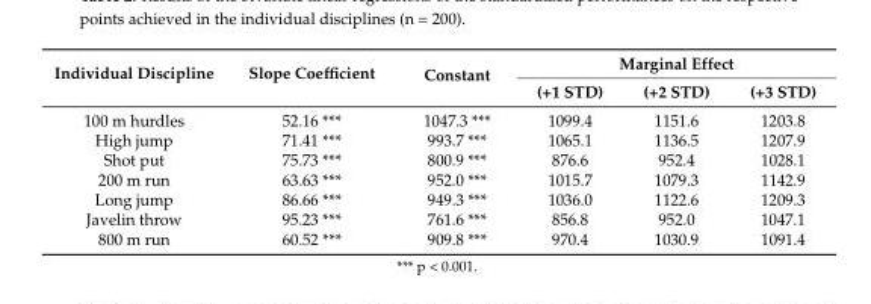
<table><thead><tr><td rowspan="2">Individual Discipline</td><td rowspan="2">Slope Coefficient</td><td rowspan="2">Constant</td><td colspan="3">Marginal Effect</td></tr><tr><td>(+1 STD)</td><td>(+2 STD)</td><td>(+3 STD)</td></tr></thead><tbody><tr><td>100 m hurdles</td><td>52.16 ***</td><td>1047.3 ***</td><td>1099.4</td><td>1151.6</td><td>1203.8</td></tr><tr><td>High jump</td><td>71.41 ***</td><td>993.7 ***</td><td>1065.1</td><td>1136.5</td><td>1207.9</td></tr><tr><td>Shot put</td><td>75.73 ***</td><td>800.9 ***</td><td>876.6</td><td>952.4</td><td>1028.1</td></tr><tr><td>200 m run</td><td>63.63 ***</td><td>952.0 ***</td><td>1015.7</td><td>1079.3</td><td>1142.9</td></tr><tr><td>Long jump</td><td>86.66 ***</td><td>949.3 ***</td><td>1036.0</td><td>1122.6</td><td>1209.3</td></tr><tr><td>Javelin throw</td><td>95.23 ***</td><td>761.6 ***</td><td>856.8</td><td>952.0</td><td>1047.1</td></tr><tr><td>800 m run</td><td>60.52 ***</td><td>909.8 ***</td><td>970.4</td><td>1030.9</td><td>1091.4</td></tr></tbody></table>